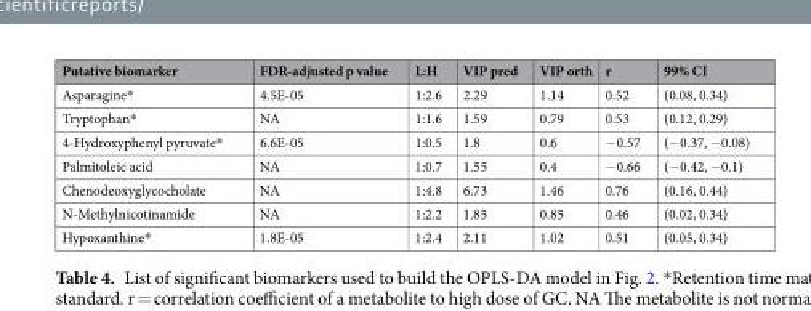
<table><thead><tr><td>Putative biomarker</td><td>FDR-adjusted p value</td><td>L:H</td><td>VIP pred</td><td>VIP orth</td><td>r</td><td>99% CI</td></tr></thead><tbody><tr><td>Asparagine*</td><td>4.5E-05</td><td>1:2.6</td><td>2.29</td><td>1.14</td><td>0.52</td><td>(0.08, 0.34)</td></tr><tr><td>Tryptophan*</td><td>NA</td><td>1:1.6</td><td>1.59</td><td>0.79</td><td>0.53</td><td>(0.12, 0.29)</td></tr><tr><td>4-Hydroxyphenyl pyruvate*</td><td>6.6E-05</td><td>1:0.5</td><td>1.8</td><td>0.6</td><td>−0.57</td><td>(−0.37, −0.08)</td></tr><tr><td>Palmitoleic acid</td><td>NA</td><td>1:0.7</td><td>1.55</td><td>0.4</td><td>−0.66</td><td>(−0.42, −0.1)</td></tr><tr><td>Chenodeoxyglycocholate</td><td>NA</td><td>1:4.8</td><td>6.73</td><td>1.46</td><td>0.76</td><td>(0.16, 0.44)</td></tr><tr><td>N-Methylnicotinamide</td><td>NA</td><td>1:2.2</td><td>1.85</td><td>0.85</td><td>0.46</td><td>(0.02, 0.34)</td></tr><tr><td>Hypoxanthine*</td><td>1.8E-05</td><td>1:2.4</td><td>2.11</td><td>1.02</td><td>0.51</td><td>(0.05, 0.34)</td></tr></tbody></table>